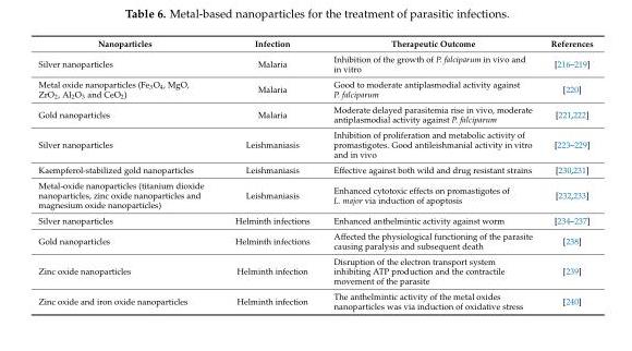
<table><thead><tr><td>Nanoparticles</td><td>Infection</td><td>Therapeutic Outcome</td><td>References</td></tr></thead><tbody><tr><td>Silver nanoparticles</td><td>Malaria</td><td>Inhibition of the growth of P. falciparum in vivo and in vitro</td><td>[216–219]</td></tr><tr><td>Metal oxide nanoparticles (Fe<sub>3</sub>O<sub>4</sub>, MgO, ZrO<sub>2</sub>, Al<sub>2</sub>O<sub>3</sub> and CeO<sub>2</sub>)</td><td>Malaria</td><td>Good to moderate antiplasmodial activity against P. falciparum</td><td>[220]</td></tr><tr><td>Gold nanoparticles</td><td>Malaria</td><td>Moderate delayed parasitemia rise in vivo, moderate antiplasmodial activity against P. falciparum</td><td>[221,222]</td></tr><tr><td>Silver nanoparticles</td><td>Leishmaniasis</td><td>Inhibition of proliferation and metabolic activity of promastigotes. Good antileishmanial activity in vitro and in vivo</td><td>[223–229]</td></tr><tr><td>Kaempferol-stabilized gold nanoparticles</td><td>Leishmaniasis</td><td>Effective against both wild and drug resistant strains</td><td>[230,231]</td></tr><tr><td>Metal-oxide nanoparticles (titanium dioxide nanoparticles, zinc oxide nanoparticles and magnesium oxide nanoparticles)</td><td>Leishmaniasis</td><td>Enhanced cytotoxic effects on promastigotes of L. major via induction of apoptosis</td><td>[232,233]</td></tr><tr><td>Silver nanoparticles</td><td>Helminth infections</td><td>Enhanced anthelmintic activity against worm</td><td>[234–237]</td></tr><tr><td>Gold nanoparticles</td><td>Helminth infections</td><td>Affected the physiological functioning of the parasite causing paralysis and subsequent death</td><td>[238]</td></tr><tr><td>Zinc oxide nanoparticles</td><td>Helminth infection</td><td>Disruption of the electron transport system inhibiting ATP production and the contractile movement of the parasite</td><td>[239]</td></tr><tr><td>Zinc oxide and iron oxide nanoparticles</td><td>Helminth infection</td><td>The anthelmintic activity of the metal oxides nanoparticles was via induction of oxidative stress</td><td>[240]</td></tr></tbody></table>